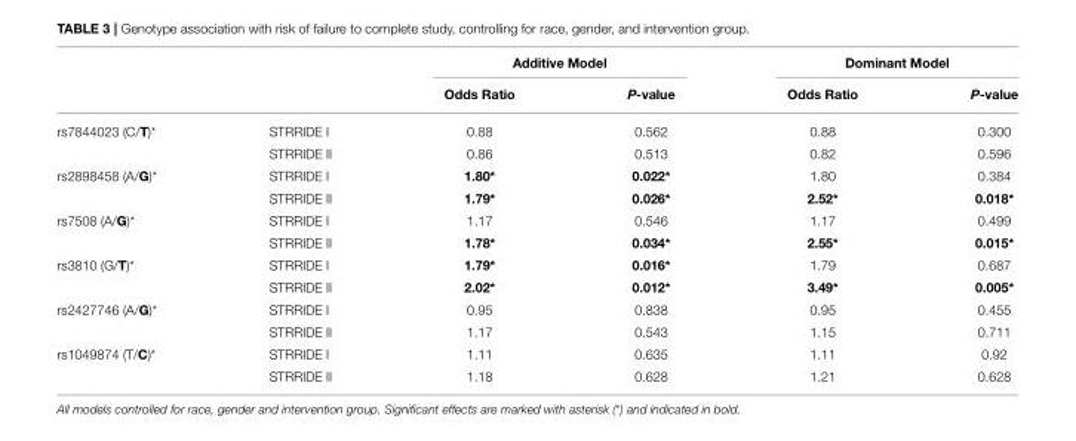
<table><thead><tr><td rowspan="2"></td><td rowspan="2"></td><td colspan="2">Additive Model</td><td colspan="2">Dominant Model</td></tr><tr><td>Odds Ratio</td><td>P-value</td><td>Odds Ratio</td><td>P-value</td></tr></thead><tbody><tr><td rowspan="2">rs7844023 (C/T)*</td><td>STRRIDE I</td><td>0.88</td><td>0.562</td><td>0.88</td><td>0.300</td></tr><tr><td>STRRIDE II</td><td>0.86</td><td>0.513</td><td>0.82</td><td>0.596</td></tr><tr><td rowspan="2">rs2898458 (A/G)*</td><td>STRRIDE I</td><td>1.80*</td><td>0.022*</td><td>1.80</td><td>0.384</td></tr><tr><td>STRRIDE II</td><td>1.79*</td><td>0.026*</td><td>2.52*</td><td>0.018*</td></tr><tr><td rowspan="2">rs7508 (A/G)*</td><td>STRRIDE I</td><td>1.17</td><td>0.546</td><td>1.17</td><td>0.499</td></tr><tr><td>STRRIDE II</td><td>1.78*</td><td>0.034*</td><td>2.55*</td><td>0.015*</td></tr><tr><td rowspan="2">rs3810 (G/T)*</td><td>STRRIDE I</td><td>1.79*</td><td>0.016*</td><td>1.79</td><td>0.687</td></tr><tr><td>STRRIDE II</td><td>2.02*</td><td>0.012*</td><td>3.49*</td><td>0.005*</td></tr><tr><td rowspan="2">rs2427746 (A/G)*</td><td>STRRIDE I</td><td>0.95</td><td>0.838</td><td>0.95</td><td>0.455</td></tr><tr><td>STRRIDE II</td><td>1.17</td><td>0.543</td><td>1.15</td><td>0.711</td></tr><tr><td rowspan="2">rs1049874 (T/C)*</td><td>STRRIDE I</td><td>1.11</td><td>0.635</td><td>1.11</td><td>0.92</td></tr><tr><td>STRRIDE II</td><td>1.18</td><td>0.628</td><td>1.21</td><td>0.628</td></tr></tbody></table>